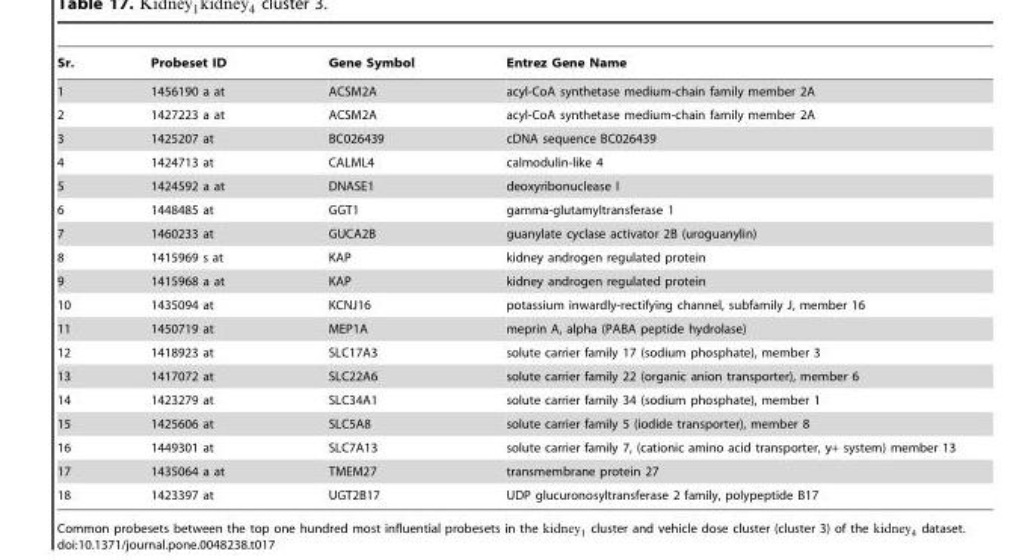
<table><thead><tr><td>Sr.</td><td>Probeset ID</td><td>Gene Symbol</td><td>Entrez Gene Name</td></tr></thead><tbody><tr><td>1</td><td>1456190 a at</td><td>ACSM2A</td><td>acyl-CoA synthetase medium-chain family member 2A</td></tr><tr><td>2</td><td>1427223 a at</td><td>ACSM2A</td><td>acyl-CoA synthetase medium-chain family member 2A</td></tr><tr><td>3</td><td>1425207 at</td><td>BC026439</td><td>cDNA sequence BC026439</td></tr><tr><td>4</td><td>1424713 at</td><td>CALML4</td><td>calmodulin-like 4</td></tr><tr><td>5</td><td>1424592 a at</td><td>DNASE1</td><td>deoxyribonuclease I</td></tr><tr><td>6</td><td>1448485 at</td><td>GGT1</td><td>gamma-glutamyltransferase 1</td></tr><tr><td>7</td><td>1460233 at</td><td>GUCA2B</td><td>guanylate cyclase activator 2B (uroguanylin)</td></tr><tr><td>8</td><td>1415969 s at</td><td>KAP</td><td>kidney androgen regulated protein</td></tr><tr><td>9</td><td>1415968 a at</td><td>KAP</td><td>kidney androgen regulated protein</td></tr><tr><td>10</td><td>1435094 at</td><td>KCNJ16</td><td>potassium inwardly-rectifying channel, subfamily J, member 16</td></tr><tr><td>11</td><td>1450719 at</td><td>MEP1A</td><td>meprin A, alpha (PABA peptide hydrolase)</td></tr><tr><td>12</td><td>1418923 at</td><td>SLC17A3</td><td>solute carrier family 17 (sodium phosphate), member 3</td></tr><tr><td>13</td><td>1417072 at</td><td>SLC22A6</td><td>solute carrier family 22 (organic anion transporter), member 6</td></tr><tr><td>14</td><td>1423279 at</td><td>SLC34A1</td><td>solute carrier family 34 (sodium phosphate), member 1</td></tr><tr><td>15</td><td>1425606 at</td><td>SLC5A8</td><td>solute carrier family 5 (iodide transporter), member 8</td></tr><tr><td>16</td><td>1449301 at</td><td>SLC7A13</td><td>solute carrier family 7, (cationic amino acid transporter, y+ system) member 13</td></tr><tr><td>17</td><td>1435064 a at</td><td>TMEM27</td><td>transmembrane protein 27</td></tr><tr><td>18</td><td>1423397 at</td><td>UGT2B17</td><td>UDP glucuronosyltransferase 2 family, polypeptide B17</td></tr></tbody></table>